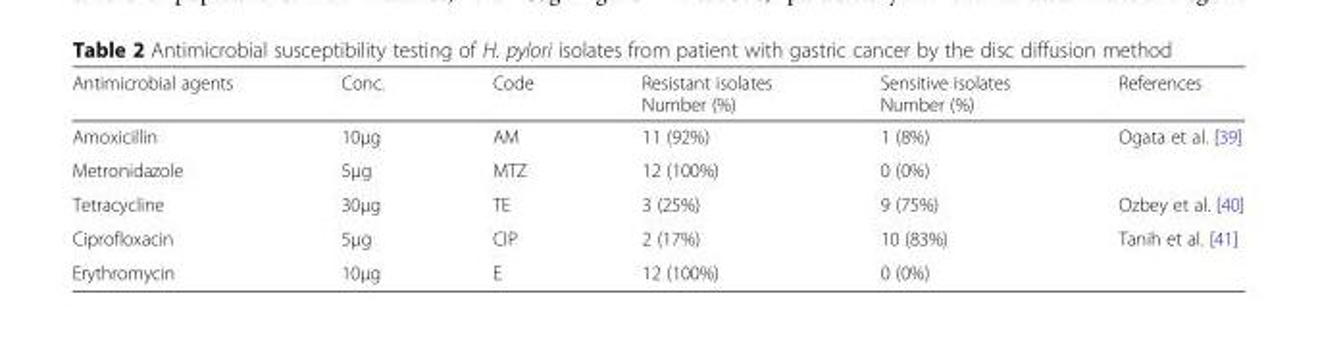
<table><thead><tr><td>Antimicrobial agents</td><td>Conc.</td><td>Code</td><td>Resistant isolates Number (%)</td><td>Sensitive isolates Number (%)</td><td>References</td></tr></thead><tbody><tr><td>Amoxicillin</td><td>10μg</td><td>AM</td><td>11 (92%)</td><td>1 (8%)</td><td rowspan="2">Ogata et al. [39]</td></tr><tr><td>Metronidazole</td><td>5μg</td><td>MTZ</td><td>12 (100%)</td><td>0 (0%)</td></tr><tr><td>Tetracycline</td><td>30μg</td><td>TE</td><td>3 (25%)</td><td>9 (75%)</td><td>Ozbey et al. [40]</td></tr><tr><td>Ciprofloxacin</td><td>5μg</td><td>CIP</td><td>2 (17%)</td><td>10 (83%)</td><td rowspan="2">Tanih et al. [41]</td></tr><tr><td>Erythromycin</td><td>10μg</td><td>E</td><td>12 (100%)</td><td>0 (0%)</td></tr></tbody></table>